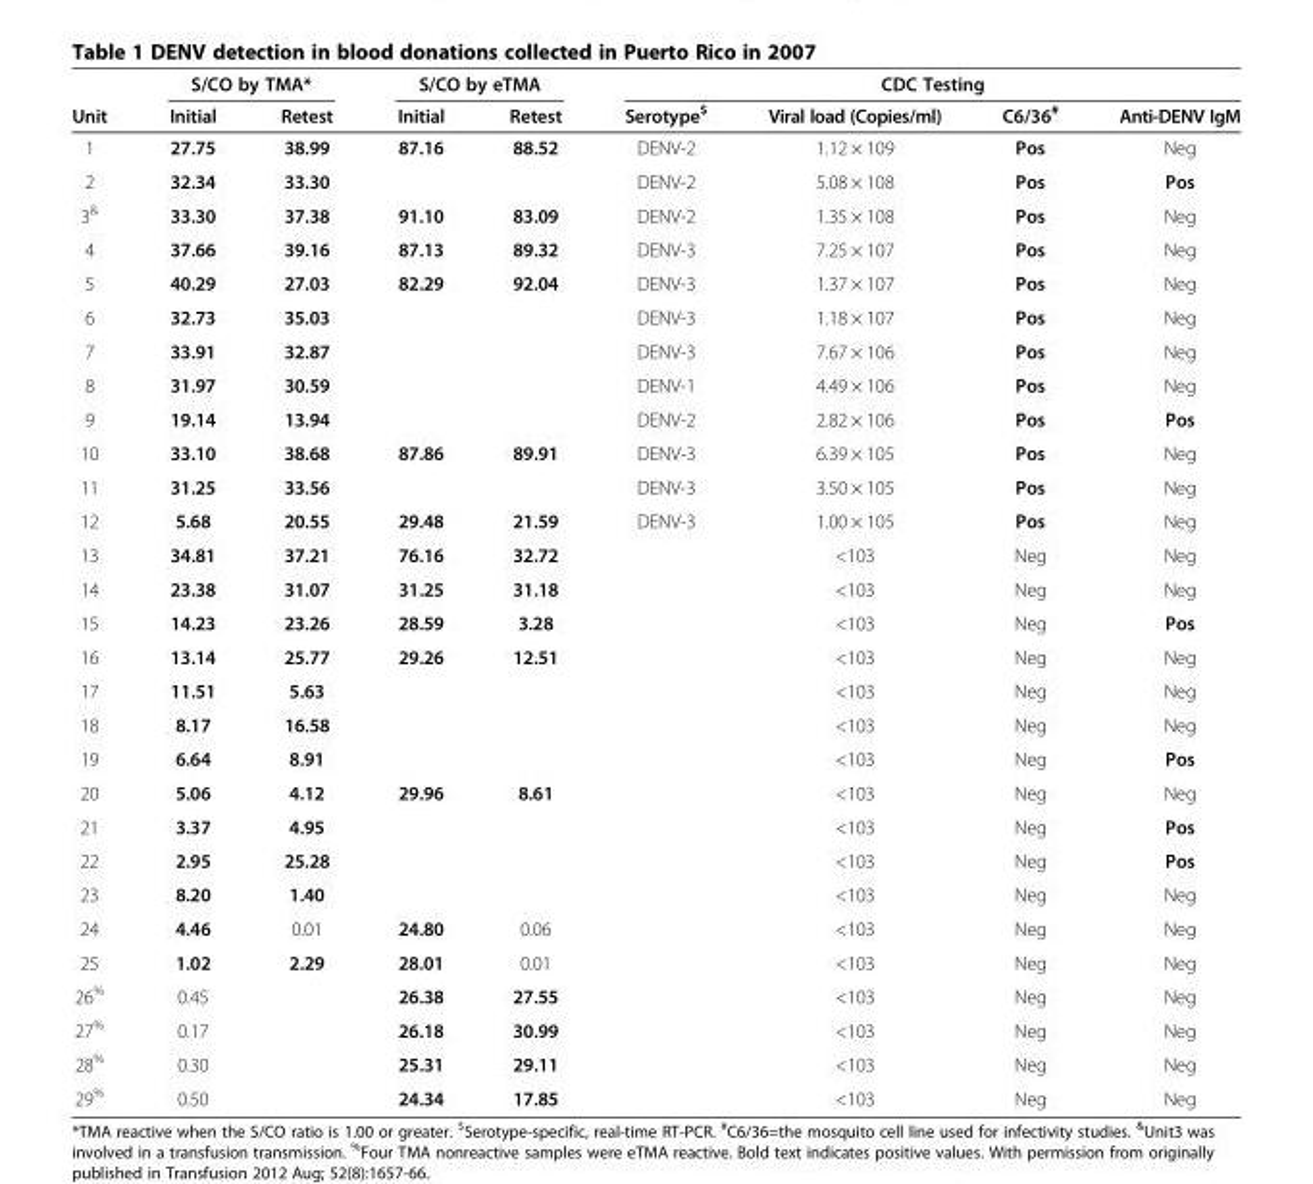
<table><thead><tr><td rowspan="2">Unit</td><td colspan="2">S/CO by TMA*</td><td colspan="2">S/CO by eTMA</td><td colspan="4">CDC Testing</td></tr><tr><td>Initial</td><td>Retest</td><td>Initial</td><td>Retest</td><td>Serotype<sup>$</sup></td><td>Viral load (Copies/ml)</td><td>C6/36<sup>#</sup></td><td>Anti-DENV IgM</td></tr></thead><tbody><tr><td>1</td><td>27.75</td><td>38.99</td><td>87.16</td><td>88.52</td><td>DENV-2</td><td>1.12 × 109</td><td>Pos</td><td>Neg</td></tr><tr><td>2</td><td>32.34</td><td>33.30</td><td></td><td></td><td>DENV-2</td><td>5.08 × 108</td><td>Pos</td><td>Pos</td></tr><tr><td>3<sup>&amp;</sup></td><td>33.30</td><td>37.38</td><td>91.10</td><td>83.09</td><td>DENV-2</td><td>1.35 × 108</td><td>Pos</td><td>Neg</td></tr><tr><td>4</td><td>37.66</td><td>39.16</td><td>87.13</td><td>89.32</td><td>DENV-3</td><td>7.25 × 107</td><td>Pos</td><td>Neg</td></tr><tr><td>5</td><td>40.29</td><td>27.03</td><td>82.29</td><td>92.04</td><td>DENV-3</td><td>1.37 × 107</td><td>Pos</td><td>Neg</td></tr><tr><td>6</td><td>32.73</td><td>35.03</td><td></td><td></td><td>DENV-3</td><td>1.18 × 107</td><td>Pos</td><td>Neg</td></tr><tr><td>7</td><td>33.91</td><td>32.87</td><td></td><td></td><td>DENV-3</td><td>7.67 × 106</td><td>Pos</td><td>Neg</td></tr><tr><td>8</td><td>31.97</td><td>30.59</td><td></td><td></td><td>DENV-1</td><td>4.49 × 106</td><td>Pos</td><td>Neg</td></tr><tr><td>9</td><td>19.14</td><td>13.94</td><td></td><td></td><td>DENV-2</td><td>2.82 × 106</td><td>Pos</td><td>Pos</td></tr><tr><td>10</td><td>33.10</td><td>38.68</td><td>87.86</td><td>89.91</td><td>DENV-3</td><td>6.39 × 105</td><td>Pos</td><td>Neg</td></tr><tr><td>11</td><td>31.25</td><td>33.56</td><td></td><td></td><td>DENV-3</td><td>3.50 × 105</td><td>Pos</td><td>Neg</td></tr><tr><td>12</td><td>5.68</td><td>20.55</td><td>29.48</td><td>21.59</td><td>DENV-3</td><td>1.00 × 105</td><td>Pos</td><td>Neg</td></tr><tr><td>13</td><td>34.81</td><td>37.21</td><td>76.16</td><td>32.72</td><td></td><td>&lt;103</td><td>Neg</td><td>Neg</td></tr><tr><td>14</td><td>23.38</td><td>31.07</td><td>31.25</td><td>31.18</td><td></td><td>&lt;103</td><td>Neg</td><td>Neg</td></tr><tr><td>15</td><td>14.23</td><td>23.26</td><td>28.59</td><td>3.28</td><td></td><td>&lt;103</td><td>Neg</td><td>Pos</td></tr><tr><td>16</td><td>13.14</td><td>25.77</td><td>29.26</td><td>12.51</td><td></td><td>&lt;103</td><td>Neg</td><td>Neg</td></tr><tr><td>17</td><td>11.51</td><td>5.63</td><td></td><td></td><td></td><td>&lt;103</td><td>Neg</td><td>Neg</td></tr><tr><td>18</td><td>8.17</td><td>16.58</td><td></td><td></td><td></td><td>&lt;103</td><td>Neg</td><td>Neg</td></tr><tr><td>19</td><td>6.64</td><td>8.91</td><td></td><td></td><td></td><td>&lt;103</td><td>Neg</td><td>Pos</td></tr><tr><td>20</td><td>5.06</td><td>4.12</td><td>29.96</td><td>8.61</td><td></td><td>&lt;103</td><td>Neg</td><td>Neg</td></tr><tr><td>21</td><td>3.37</td><td>4.95</td><td></td><td></td><td></td><td>&lt;103</td><td>Neg</td><td>Pos</td></tr><tr><td>22</td><td>2.95</td><td>25.28</td><td></td><td></td><td></td><td>&lt;103</td><td>Neg</td><td>Pos</td></tr><tr><td>23</td><td>8.20</td><td>1.40</td><td></td><td></td><td></td><td>&lt;103</td><td>Neg</td><td>Neg</td></tr><tr><td>24</td><td>4.46</td><td>0.01</td><td>24.80</td><td>0.06</td><td></td><td>&lt;103</td><td>Neg</td><td>Neg</td></tr><tr><td>25</td><td>1.02</td><td>2.29</td><td>28.01</td><td>0.01</td><td></td><td>&lt;103</td><td>Neg</td><td>Neg</td></tr><tr><td>26<sup>%</sup></td><td>0.45</td><td></td><td>26.38</td><td>27.55</td><td></td><td>&lt;103</td><td>Neg</td><td>Neg</td></tr><tr><td>27<sup>%</sup></td><td>0.17</td><td></td><td>26.18</td><td>30.99</td><td></td><td>&lt;103</td><td>Neg</td><td>Neg</td></tr><tr><td>28<sup>%</sup></td><td>0.30</td><td></td><td>25.31</td><td>29.11</td><td></td><td>&lt;103</td><td>Neg</td><td>Neg</td></tr><tr><td>29<sup>%</sup></td><td>0.50</td><td></td><td>24.34</td><td>17.85</td><td></td><td>&lt;103</td><td>Neg</td><td>Neg</td></tr></tbody></table>